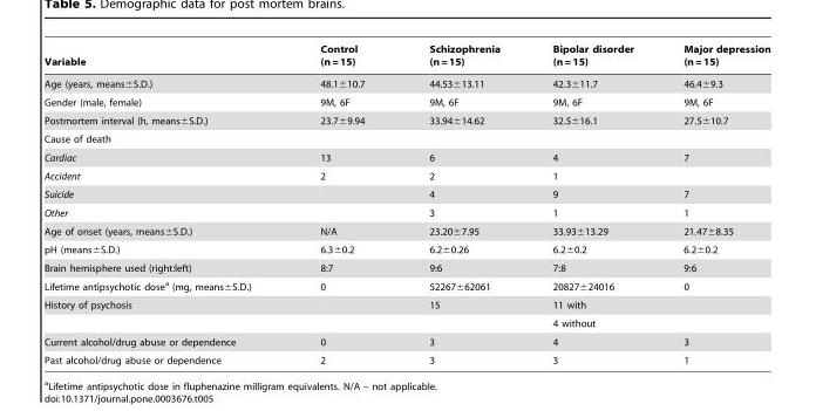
<table><thead><tr><td>Variable</td><td>Control (n = 15)</td><td>Schizophrenia (n = 15)</td><td>Bipolar disorder (n = 15)</td><td>Major depression (n = 15)</td></tr></thead><tbody><tr><td>Age (years, means±S.D.)</td><td>48.1±10.7</td><td>44.53±13.11</td><td>42.3±11.7</td><td>46.4±9.3</td></tr><tr><td>Gender (male, female)</td><td>9M, 6F</td><td>9M, 6F</td><td>9M, 6F</td><td>9M, 6F</td></tr><tr><td>Postmortem interval (h, means±S.D.)</td><td>23.7±9.94</td><td>33.94±14.62</td><td>32.5±16.1</td><td>27.5±10.7</td></tr><tr><td colspan="5">Cause of death</td></tr><tr><td>Cardiac</td><td>13</td><td>6</td><td>4</td><td>7</td></tr><tr><td>Accident</td><td>2</td><td>2</td><td>1</td><td></td></tr><tr><td>Suicide</td><td></td><td>4</td><td>9</td><td>7</td></tr><tr><td>Other</td><td></td><td>3</td><td>1</td><td>1</td></tr><tr><td>Age of onset (years, means±S.D.)</td><td>N/A</td><td>23.20±7.95</td><td>33.93±13.29</td><td>21.47±8.35</td></tr><tr><td>pH (means±S.D.)</td><td>6.3±0.2</td><td>6.2±0.26</td><td>6.2±0.2</td><td>6.2±0.2</td></tr><tr><td>Brain hemisphere used (right:left)</td><td>8:7</td><td>9:6</td><td>7:8</td><td>9:6</td></tr><tr><td>Lifetime antipsychotic dose<sup>a</sup> (mg, means±S.D.)</td><td>0</td><td>52267±62061</td><td>20827±24016</td><td>0</td></tr><tr><td rowspan="2">History of psychosis</td><td></td><td>15</td><td>11 with</td><td></td></tr><tr><td></td><td></td><td>4 without</td><td></td></tr><tr><td>Current alcohol/drug abuse or dependence</td><td>0</td><td>3</td><td>4</td><td>3</td></tr><tr><td>Past alcohol/drug abuse or dependence</td><td>2</td><td>3</td><td>3</td><td>1</td></tr></tbody></table>